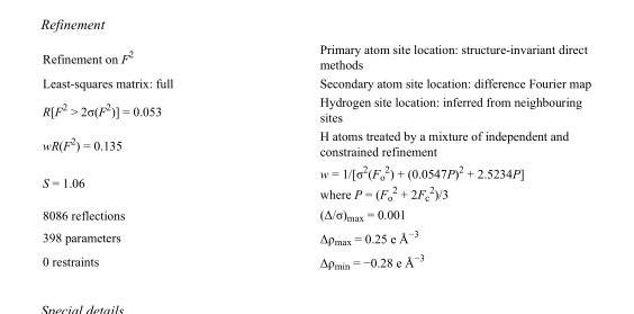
<table><tbody><tr><td>Refinement on F<sup>2</sup></td><td>Primary atom site location: structure-invariant direct methods</td></tr><tr><td>Least-squares matrix: full</td><td>Secondary atom site location: difference Fourier map</td></tr><tr><td>R[F<sup>2</sup> &gt; 2σ(F<sup>2</sup>)] = 0.053</td><td>Hydrogen site location: inferred from neighbouring sites</td></tr><tr><td>wR(F<sup>2</sup>) = 0.135</td><td>H atoms treated by a mixture of independent and constrained refinement</td></tr><tr><td>S = 1.06</td><td>w = 1/[σ<sup>2</sup>(F<sub>o</sub> <sup>2</sup>) + (0.0547P)<sup>2</sup> + 2.5234P] where P = (F<sub>o</sub> <sup>2</sup> + 2F<sub>c</sub> <sup>2</sup>)/3</td></tr><tr><td>8086 reflections</td><td>(Δ/σ)<sub>max</sub> = 0.001</td></tr><tr><td>398 parameters</td><td>Δρ<sub>max</sub> = 0.25 e Å<sup>−3</sup></td></tr><tr><td>0 restraints</td><td>Δρ<sub>min</sub> = −0.28 e Å<sup>−3</sup></td></tr></tbody></table>